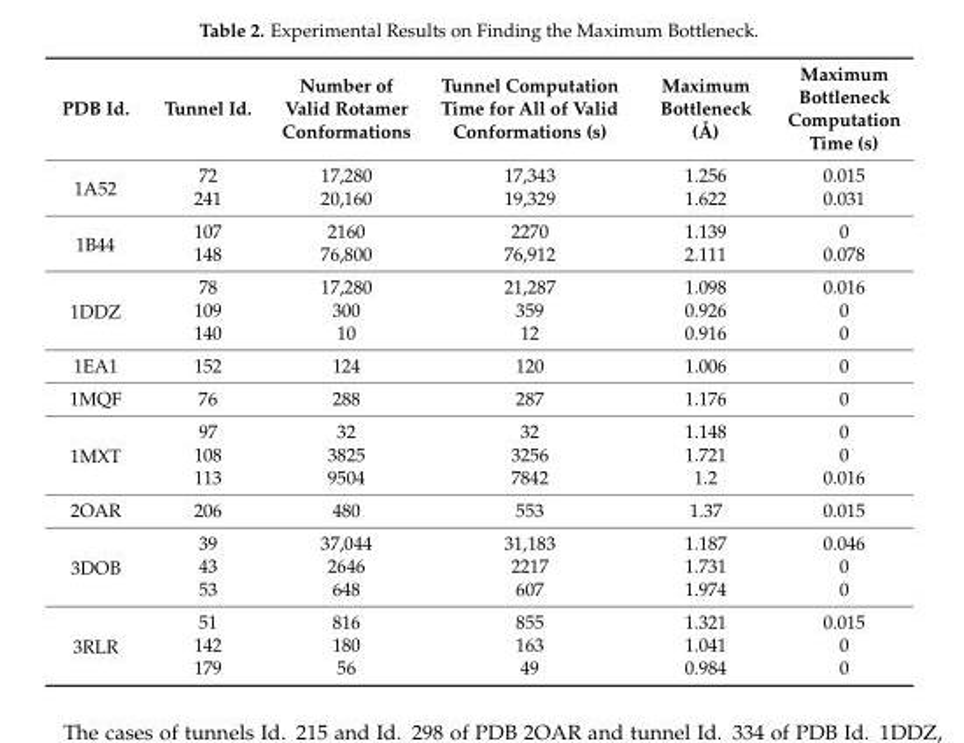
<table><thead><tr><td>PDB Id.</td><td>Tunnel Id.</td><td>Number of Valid Rotamer Conformations</td><td>Tunnel Computation Time for All of Valid Conformations (s)</td><td>Maximum Bottleneck (Å)</td><td>Maximum Bottleneck Computation Time (s)</td></tr></thead><tbody><tr><td rowspan="2">1A52</td><td>72</td><td>17,280</td><td>17,343</td><td>1.256</td><td>0.015</td></tr><tr><td>241</td><td>20,160</td><td>19,329</td><td>1.622</td><td>0.031</td></tr><tr><td rowspan="2">1B44</td><td>107</td><td>2160</td><td>2270</td><td>1.139</td><td>0</td></tr><tr><td>148</td><td>76,800</td><td>76,912</td><td>2.111</td><td>0.078</td></tr><tr><td rowspan="3">1DDZ</td><td>78</td><td>17,280</td><td>21,287</td><td>1.098</td><td>0.016</td></tr><tr><td>109</td><td>300</td><td>359</td><td>0.926</td><td>0</td></tr><tr><td>140</td><td>10</td><td>12</td><td>0.916</td><td>0</td></tr><tr><td>1EA1</td><td>152</td><td>124</td><td>120</td><td>1.006</td><td>0</td></tr><tr><td>1MQF</td><td>76</td><td>288</td><td>287</td><td>1.176</td><td>0</td></tr><tr><td rowspan="3">1MXT</td><td>97</td><td>32</td><td>32</td><td>1.148</td><td>0</td></tr><tr><td>108</td><td>3825</td><td>3256</td><td>1.721</td><td>0</td></tr><tr><td>113</td><td>9504</td><td>7842</td><td>1.2</td><td>0.016</td></tr><tr><td>2OAR</td><td>206</td><td>480</td><td>553</td><td>1.37</td><td>0.015</td></tr><tr><td rowspan="3">3DOB</td><td>39</td><td>37,044</td><td>31,183</td><td>1.187</td><td>0.046</td></tr><tr><td>43</td><td>2646</td><td>2217</td><td>1.731</td><td>0</td></tr><tr><td>53</td><td>648</td><td>607</td><td>1.974</td><td>0</td></tr><tr><td rowspan="3">3RLR</td><td>51</td><td>816</td><td>855</td><td>1.321</td><td>0.015</td></tr><tr><td>142</td><td>180</td><td>163</td><td>1.041</td><td>0</td></tr><tr><td>179</td><td>56</td><td>49</td><td>0.984</td><td>0</td></tr></tbody></table>